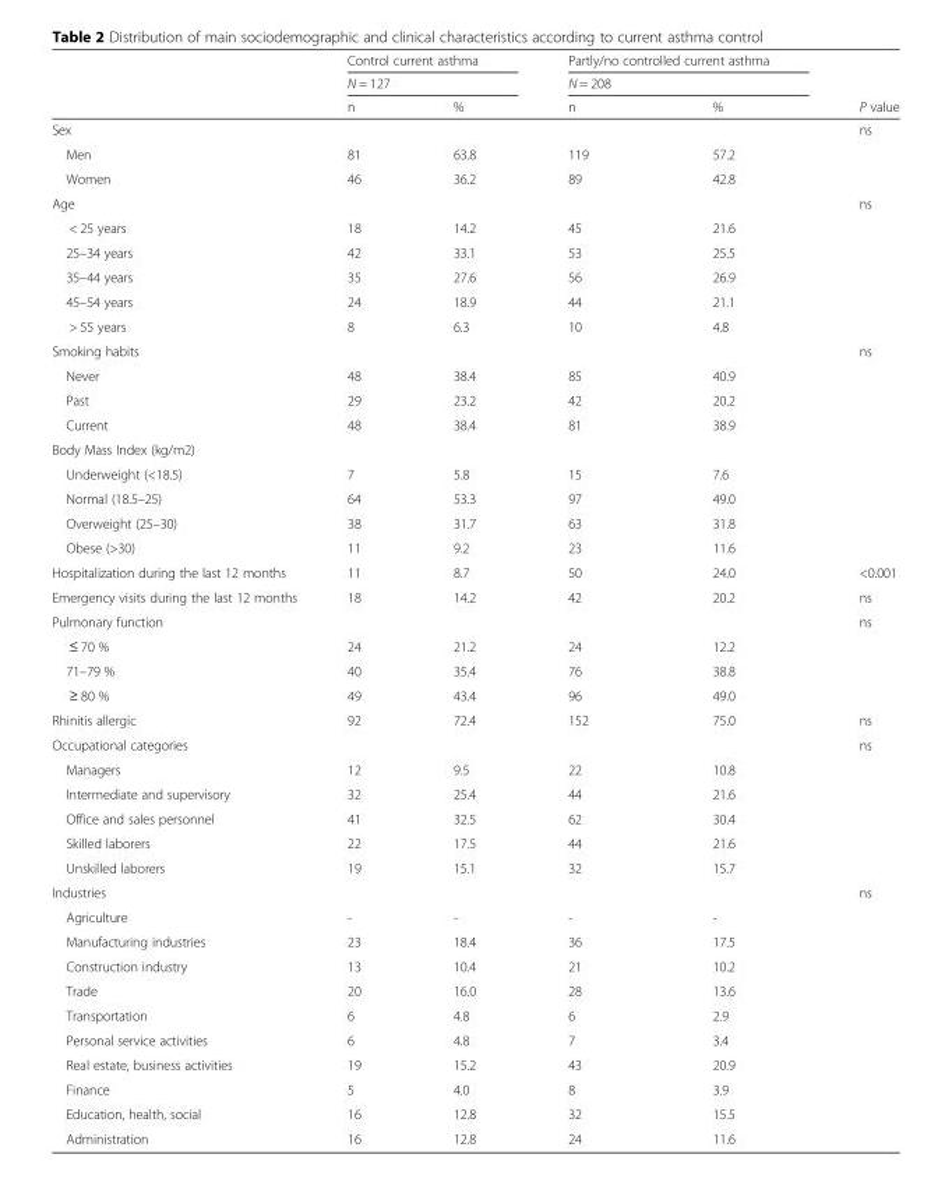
<table><thead><tr><td rowspan="3"></td><td rowspan="2" colspan="2">Control current asthma N = 127</td><td rowspan="2" colspan="2">Partly/no controlled current asthma N = 208</td><td rowspan="3">P value</td></tr><tr></tr><tr><td>n</td><td>%</td><td>n</td><td>%</td></tr></thead><tbody><tr><td>Sex</td><td></td><td></td><td></td><td></td><td>ns</td></tr><tr><td>Men</td><td>81</td><td>63.8</td><td>119</td><td>57.2</td><td></td></tr><tr><td>Women</td><td>46</td><td>36.2</td><td>89</td><td>42.8</td><td></td></tr><tr><td>Age</td><td></td><td></td><td></td><td></td><td>ns</td></tr><tr><td>&lt; 25 years</td><td>18</td><td>14.2</td><td>45</td><td>21.6</td><td></td></tr><tr><td>25–34 years</td><td>42</td><td>33.1</td><td>53</td><td>25.5</td><td></td></tr><tr><td>35–44 years</td><td>35</td><td>27.6</td><td>56</td><td>26.9</td><td></td></tr><tr><td>45–54 years</td><td>24</td><td>18.9</td><td>44</td><td>21.1</td><td></td></tr><tr><td>&gt; 55 years</td><td>8</td><td>6.3</td><td>10</td><td>4.8</td><td></td></tr><tr><td>Smoking habits</td><td></td><td></td><td></td><td></td><td>ns</td></tr><tr><td>Never</td><td>48</td><td>38.4</td><td>85</td><td>40.9</td><td></td></tr><tr><td>Past</td><td>29</td><td>23.2</td><td>42</td><td>20.2</td><td></td></tr><tr><td>Current</td><td>48</td><td>38.4</td><td>81</td><td>38.9</td><td></td></tr><tr><td colspan="6">Body Mass Index (kg/m2)</td></tr><tr><td>Underweight (&lt;18.5)</td><td>7</td><td>5.8</td><td>15</td><td>7.6</td><td></td></tr><tr><td>Normal (18.5–25)</td><td>64</td><td>53.3</td><td>97</td><td>49.0</td><td></td></tr><tr><td>Overweight (25–30)</td><td>38</td><td>31.7</td><td>63</td><td>31.8</td><td></td></tr><tr><td>Obese (&gt;30)</td><td>11</td><td>9.2</td><td>23</td><td>11.6</td><td></td></tr><tr><td>Hospitalization during the last 12 months</td><td>11</td><td>8.7</td><td>50</td><td>24.0</td><td>&lt;0.001</td></tr><tr><td>Emergency visits during the last 12 months</td><td>18</td><td>14.2</td><td>42</td><td>20.2</td><td>ns</td></tr><tr><td>Pulmonary function</td><td></td><td></td><td></td><td></td><td>ns</td></tr><tr><td>≤ 70 %</td><td>24</td><td>21.2</td><td>24</td><td>12.2</td><td></td></tr><tr><td>71–79 %</td><td>40</td><td>35.4</td><td>76</td><td>38.8</td><td></td></tr><tr><td>≥ 80 %</td><td>49</td><td>43.4</td><td>96</td><td>49.0</td><td></td></tr><tr><td>Rhinitis allergic</td><td>92</td><td>72.4</td><td>152</td><td>75.0</td><td>ns</td></tr><tr><td>Occupational categories</td><td></td><td></td><td></td><td></td><td>ns</td></tr><tr><td>Managers</td><td>12</td><td>9.5</td><td>22</td><td>10.8</td><td></td></tr><tr><td>Intermediate and supervisory</td><td>32</td><td>25.4</td><td>44</td><td>21.6</td><td></td></tr><tr><td>Office and sales personnel</td><td>41</td><td>32.5</td><td>62</td><td>30.4</td><td></td></tr><tr><td>Skilled laborers</td><td>22</td><td>17.5</td><td>44</td><td>21.6</td><td></td></tr><tr><td>Unskilled laborers</td><td>19</td><td>15.1</td><td>32</td><td>15.7</td><td></td></tr><tr><td>Industries</td><td></td><td></td><td></td><td></td><td>ns</td></tr><tr><td>Agriculture</td><td>-</td><td>-</td><td>-</td><td>-</td><td></td></tr><tr><td>Manufacturing industries</td><td>23</td><td>18.4</td><td>36</td><td>17.5</td><td></td></tr><tr><td>Construction industry</td><td>13</td><td>10.4</td><td>21</td><td>10.2</td><td></td></tr><tr><td>Trade</td><td>20</td><td>16.0</td><td>28</td><td>13.6</td><td></td></tr><tr><td>Transportation</td><td>6</td><td>4.8</td><td>6</td><td>2.9</td><td></td></tr><tr><td>Personal service activities</td><td>6</td><td>4.8</td><td>7</td><td>3.4</td><td></td></tr><tr><td>Real estate, business activities</td><td>19</td><td>15.2</td><td>43</td><td>20.9</td><td></td></tr><tr><td>Finance</td><td>5</td><td>4.0</td><td>8</td><td>3.9</td><td></td></tr><tr><td>Education, health, social</td><td>16</td><td>12.8</td><td>32</td><td>15.5</td><td></td></tr><tr><td>Administration</td><td>16</td><td>12.8</td><td>24</td><td>11.6</td><td></td></tr></tbody></table>